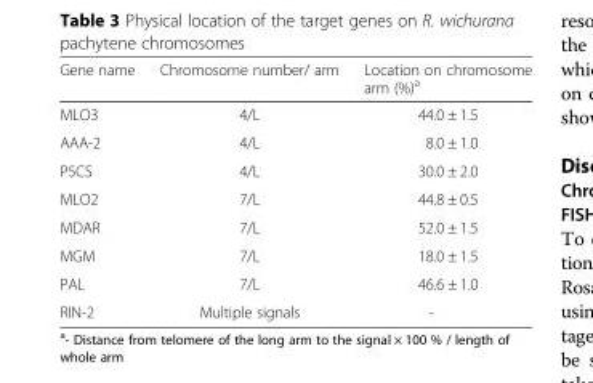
<table><thead><tr><td>Gene name</td><td>Chromosome number/ arm</td><td>Location on chromosome arm (%)<sup>a</sup></td></tr></thead><tbody><tr><td>MLO3</td><td>4/L</td><td>44.0 ± 1.5</td></tr><tr><td>AAA-2</td><td>4/L</td><td>8.0 ± 1.0</td></tr><tr><td>P5CS</td><td>4/L</td><td>30.0 ± 2.0</td></tr><tr><td>MLO2</td><td>7/L</td><td>44.8 ± 0.5</td></tr><tr><td>MDAR</td><td>7/L</td><td>52.0 ± 1.5</td></tr><tr><td>MGM</td><td>7/L</td><td>18.0 ± 1.5</td></tr><tr><td>PAL</td><td>7/L</td><td>46.6 ± 1.0</td></tr><tr><td>RIN-2</td><td>Multiple signals</td><td>-</td></tr></tbody></table>